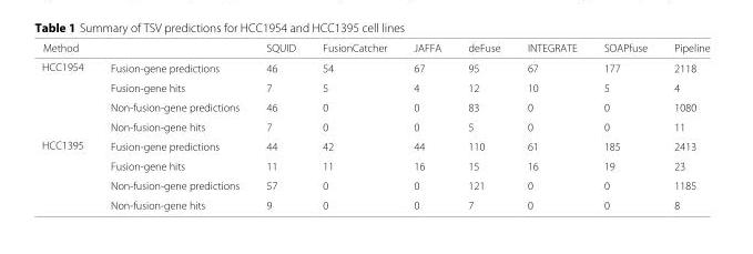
<table><thead><tr><td colspan="2">Method</td><td rowspan="2">SQUID 46</td><td rowspan="2">FusionCatcher 54</td><td rowspan="2">JAFFA 67</td><td rowspan="2">deFuse 95</td><td rowspan="2">INTEGRATE 67</td><td rowspan="2">SOAPfuse 177</td><td rowspan="2">Pipeline 2118</td></tr><tr><td>HCC1954</td><td>Fusion-gene predictions</td></tr></thead><tbody><tr><td></td><td>Fusion-gene hits</td><td>7</td><td>5</td><td>4</td><td>12</td><td>10</td><td>5</td><td>4</td></tr><tr><td></td><td>Non-fusion-gene predictions</td><td>46</td><td>0</td><td>0</td><td>83</td><td>0</td><td>0</td><td>1080</td></tr><tr><td></td><td>Non-fusion-gene hits</td><td>7</td><td>0</td><td>0</td><td>5</td><td>0</td><td>0</td><td>11</td></tr><tr><td rowspan="4">HCC1395</td><td>Fusion-gene predictions</td><td>44</td><td>42</td><td>44</td><td>110</td><td>61</td><td>185</td><td>2413</td></tr><tr><td>Fusion-gene hits</td><td>11</td><td>11</td><td>16</td><td>15</td><td>16</td><td>19</td><td>23</td></tr><tr><td>Non-fusion-gene predictions</td><td>57</td><td>0</td><td>0</td><td>121</td><td>0</td><td>0</td><td>1185</td></tr><tr><td>Non-fusion-gene hits</td><td>9</td><td>0</td><td>0</td><td>7</td><td>0</td><td>0</td><td>8</td></tr></tbody></table>